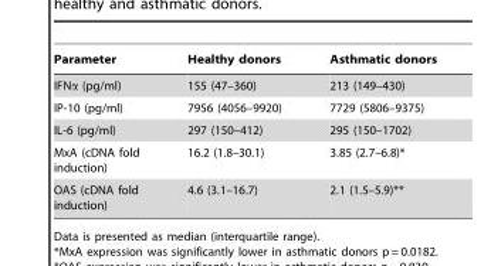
<table><thead><tr><td>Parameter</td><td>Healthy donors</td><td>Asthmatic donors</td></tr></thead><tbody><tr><td>IFNα (pg/ml)</td><td>155 (47–360)</td><td>213 (149–430)</td></tr><tr><td>IP-10 (pg/ml)</td><td>7956 (4056–9920)</td><td>7729 (5806–9375)</td></tr><tr><td>IL-6 (pg/ml)</td><td>297 (150–412)</td><td>295 (150–1702)</td></tr><tr><td>MxA (cDNA fold induction)</td><td>16.2 (1.8–30.1)</td><td>3.85 (2.7–6.8)*</td></tr><tr><td>OAS (cDNA fold induction)</td><td>4.6 (3.1–16.7)</td><td>2.1 (1.5–5.9)**</td></tr></tbody></table>